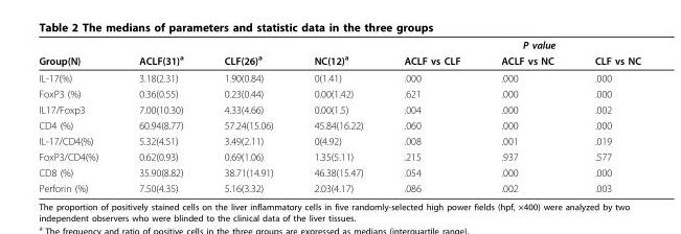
<table><thead><tr><td rowspan="2">Group(N)</td><td rowspan="2">ACLF(31)<sup>a</sup></td><td rowspan="2">CLF(26)<sup>a</sup></td><td rowspan="2">NC(12)<sup>a</sup></td><td colspan="3">P value</td></tr><tr><td>ACLF vs CLF</td><td>ACLF vs NC</td><td>CLF vs NC</td></tr></thead><tbody><tr><td>IL-17(%)</td><td>3.18(2.31)</td><td>1.90(0.84)</td><td>0(1.41)</td><td>.000</td><td>.000</td><td>.000</td></tr><tr><td>FoxP3 (%)</td><td>0.36(0.55)</td><td>0.23(0.44)</td><td>0.00(1.42)</td><td>.621</td><td>.000</td><td>.000</td></tr><tr><td>IL17/Foxp3</td><td>7.00(10.30)</td><td>4.33(4.66)</td><td>0.00(1.5)</td><td>.004</td><td>.000</td><td>.002</td></tr><tr><td>CD4 (%)</td><td>60.94(8.77)</td><td>57.24(15.06)</td><td>45.84(16.22)</td><td>.060</td><td>.000</td><td>.000</td></tr><tr><td>IL-17/CD4(%)</td><td>5.32(4.51)</td><td>3.49(2.11)</td><td>0(4.92)</td><td>.008</td><td>.001</td><td>.019</td></tr><tr><td>FoxP3/CD4(%)</td><td>0.62(0.93)</td><td>0.69(1.06)</td><td>1.35(5.11)</td><td>.215</td><td>.937</td><td>.577</td></tr><tr><td>CD8 (%)</td><td>35.90(8.82)</td><td>38.71(14.91)</td><td>46.38(15.47)</td><td>.054</td><td>.000</td><td>.000</td></tr><tr><td>Perforin (%)</td><td>7.50(4.35)</td><td>5.16(3.32)</td><td>2.03(4.17)</td><td>.086</td><td>.002</td><td>.003</td></tr></tbody></table>